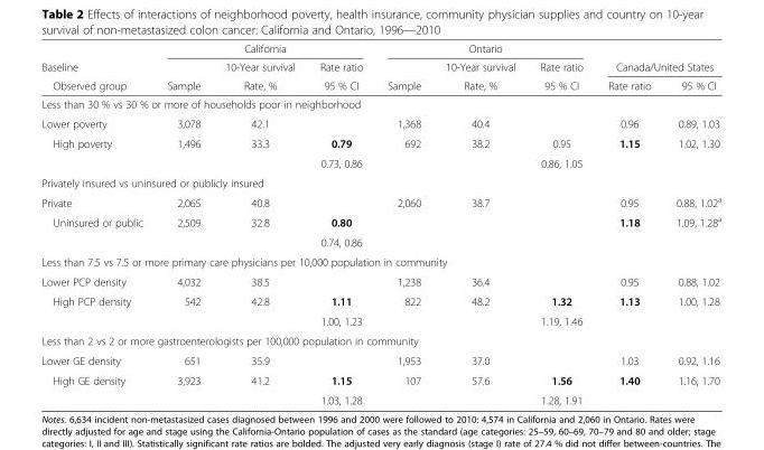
<table><thead><tr><td rowspan="3">Baseline Observed group</td><td colspan="3">California</td><td colspan="3">Ontario</td><td></td><td></td></tr><tr><td rowspan="2">Sample</td><td rowspan="2">10-Year survival Rate, %</td><td rowspan="2">Rate ratio 95 % CI</td><td rowspan="2">Sample</td><td rowspan="2">10-Year survival Rate, %</td><td rowspan="2">Rate ratio 95 % CI</td><td colspan="2">Canada/United States</td></tr><tr><td>Rate ratio</td><td>95 % CI</td></tr></thead><tbody><tr><td colspan="9">Less than 30 % vs 30 % or more of households poor in neighborhood</td></tr><tr><td>Lower poverty</td><td>3,078</td><td>42.1</td><td></td><td>1,368</td><td>40.4</td><td></td><td>0.96</td><td>0.89, 1.03</td></tr><tr><td rowspan="2">High poverty</td><td>1,496</td><td>33.3</td><td>0.79</td><td>692</td><td>38.2</td><td>0.95</td><td>1.15</td><td>1.02, 1.30</td></tr><tr><td></td><td></td><td>0.73, 0.86</td><td></td><td></td><td>0.86, 1.05</td><td></td><td></td></tr><tr><td colspan="9">Privately insured vs uninsured or publicly insured</td></tr><tr><td>Private</td><td>2,065</td><td>40.8</td><td></td><td>2,060</td><td>38.7</td><td></td><td>0.95</td><td>0.88, 1.02<sup>a</sup></td></tr><tr><td rowspan="2">Uninsured or public</td><td>2,509</td><td>32.8</td><td>0.80</td><td></td><td></td><td></td><td>1.18</td><td>1.09, 1.28<sup>a</sup></td></tr><tr><td></td><td></td><td>0.74, 0.86</td><td></td><td></td><td></td><td></td><td></td></tr><tr><td colspan="9">Less than 7.5 vs 7.5 or more primary care physicians per 10,000 population in community</td></tr><tr><td>Lower PCP density</td><td>4,032</td><td>38.5</td><td></td><td>1,238</td><td>36.4</td><td></td><td>0.95</td><td>0.88, 1.02</td></tr><tr><td rowspan="2">High PCP density</td><td>542</td><td>42.8</td><td>1.11</td><td>822</td><td>48.2</td><td>1.32</td><td>1.13</td><td>1.00, 1.28</td></tr><tr><td></td><td></td><td>1.00, 1.23</td><td></td><td></td><td>1.19, 1.46</td><td></td><td></td></tr><tr><td colspan="9">Less than 2 vs 2 or more gastroenterologists per 100,000 population in community</td></tr><tr><td>Lower GE density</td><td>651</td><td>35.9</td><td></td><td>1,953</td><td>37.0</td><td></td><td>1.03</td><td>0.92, 1.16</td></tr><tr><td rowspan="2">High GE density</td><td>3,923</td><td>41.2</td><td>1.15</td><td>107</td><td>57.6</td><td>1.56</td><td>1.40</td><td>1.16, 1.70</td></tr><tr><td></td><td></td><td>1.03, 1.28</td><td></td><td></td><td>1.28, 1.91</td><td></td><td></td></tr></tbody></table>